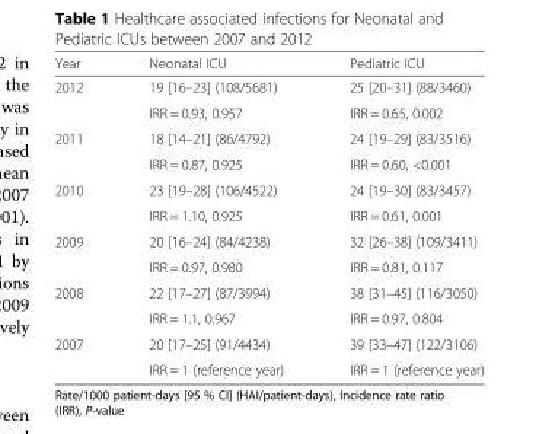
<table><thead><tr><td>Year</td><td>Neonatal ICU</td><td>Pediatric ICU</td></tr></thead><tbody><tr><td rowspan="2">2012</td><td>19 [16–23] (108/5681)</td><td>25 [20–31] (88/3460)</td></tr><tr><td>IRR = 0.93, 0.957</td><td>IRR = 0.65, 0.002</td></tr><tr><td rowspan="2">2011</td><td>18 [14–21] (86/4792)</td><td>24 [19–29] (83/3516)</td></tr><tr><td>IRR = 0.87, 0.925</td><td>IRR = 0.60, &lt;0.001</td></tr><tr><td rowspan="2">2010</td><td>23 [19–28] (106/4522)</td><td>24 [19–30] (83/3457)</td></tr><tr><td>IRR = 1.10, 0.925</td><td>IRR = 0.61, 0.001</td></tr><tr><td rowspan="2">2009</td><td>20 [16–24] (84/4238)</td><td>32 [26–38] (109/3411)</td></tr><tr><td>IRR = 0.97, 0.980</td><td>IRR = 0.81, 0.117</td></tr><tr><td rowspan="2">2008</td><td>22 [17–27] (87/3994)</td><td>38 [31–45] (116/3050)</td></tr><tr><td>IRR = 1.1, 0.967</td><td>IRR = 0.97, 0.804</td></tr><tr><td rowspan="2">2007</td><td>20 [17–25] (91/4434)</td><td>39 [33–47] (122/3106)</td></tr><tr><td>IRR = 1 (reference year)</td><td>IRR = 1 (reference year)</td></tr></tbody></table>